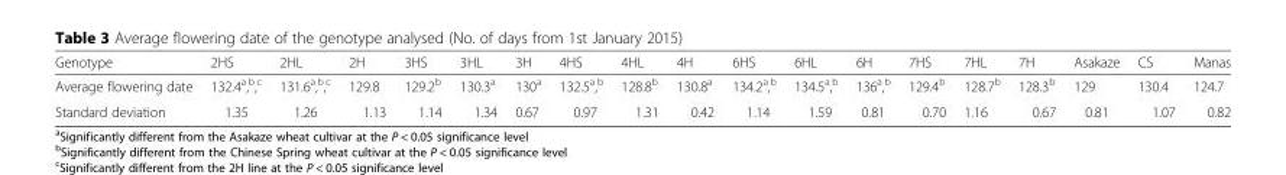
<table><thead><tr><td>Genotype</td><td>2HS</td><td>2HL</td><td>2H</td><td>3HS</td><td>3HL</td><td>3H</td><td>4HS</td><td>4HL</td><td>4H</td><td>6HS</td><td>6HL</td><td>6H</td><td>7HS</td><td>7HL</td><td>7H</td><td>Asakaze</td><td>CS</td><td>Manas</td></tr></thead><tbody><tr><td>Average flowering date</td><td>132.4<sup>a</sup>,<sup>b</sup>,<sup>c</sup></td><td>131.6<sup>a</sup>,<sup>b</sup>,<sup>c</sup></td><td>129.8</td><td>129.2<sup>b</sup></td><td>130.3<sup>a</sup></td><td>130<sup>a</sup></td><td>132.5<sup>a</sup>,<sup>b</sup></td><td>128.8<sup>b</sup></td><td>130.8<sup>a</sup></td><td>134.2<sup>a</sup>,<sup>b</sup></td><td>134.5<sup>a</sup>,<sup>b</sup></td><td>136<sup>a</sup>,<sup>b</sup></td><td>129.4<sup>b</sup></td><td>128.7<sup>b</sup></td><td>128.3<sup>b</sup></td><td>129</td><td>130.4</td><td>124.7</td></tr><tr><td>Standard deviation</td><td>1.35</td><td>1.26</td><td>1.13</td><td>1.14</td><td>1.34</td><td>0.67</td><td>0.97</td><td>1.31</td><td>0.42</td><td>1.14</td><td>1.59</td><td>0.81</td><td>0.70</td><td>1.16</td><td>0.67</td><td>0.81</td><td>1.07</td><td>0.82</td></tr></tbody></table>